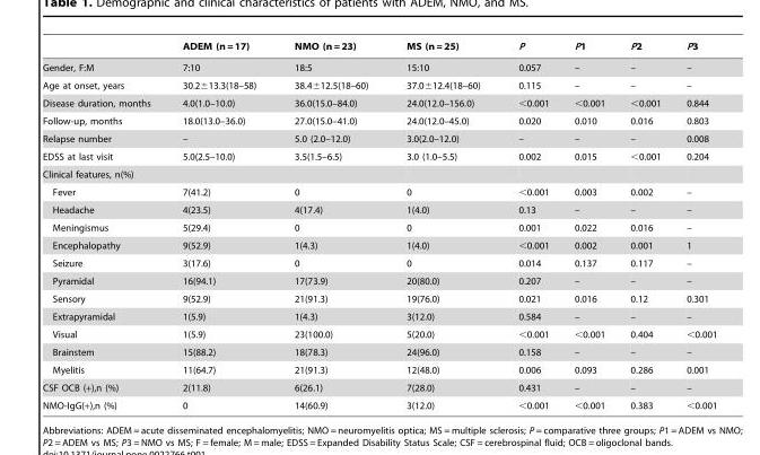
<table><thead><tr><td></td><td>ADEM (n = 17)</td><td>NMO (n = 23)</td><td>MS (n = 25)</td><td>P</td><td>P1</td><td>P2</td><td>P3</td></tr></thead><tbody><tr><td>Gender, F:M</td><td>7:10</td><td>18:5</td><td>15:10</td><td>0.057</td><td>–</td><td>–</td><td>–</td></tr><tr><td>Age at onset, years</td><td>30.2±13.3(18–58)</td><td>38.4±12.5(18–60)</td><td>37.0±12.4(18–60)</td><td>0.115</td><td>–</td><td>–</td><td>–</td></tr><tr><td>Disease duration, months</td><td>4.0(1.0–10.0)</td><td>36.0(15.0–84.0)</td><td>24.0(12.0–156.0)</td><td>&lt;0.001</td><td>&lt;0.001</td><td>&lt;0.001</td><td>0.844</td></tr><tr><td>Follow-up, months</td><td>18.0(13.0–36.0)</td><td>27.0(15.0–41.0)</td><td>24.0(12.0–45.0)</td><td>0.020</td><td>0.010</td><td>0.016</td><td>0.803</td></tr><tr><td>Relapse number</td><td>–</td><td>5.0 (2.0–12.0)</td><td>3.0(2.0–12.0)</td><td>–</td><td>–</td><td>–</td><td>0.008</td></tr><tr><td>EDSS at last visit</td><td>5.0(2.5–10.0)</td><td>3.5(1.5–6.5)</td><td>3.0 (1.0–5.5)</td><td>0.002</td><td>0.015</td><td>&lt;0.001</td><td>0.204</td></tr><tr><td colspan="8">Clinical features, n(%)</td></tr><tr><td>Fever</td><td>7(41.2)</td><td>0</td><td>0</td><td>&lt;0.001</td><td>0.003</td><td>0.002</td><td>–</td></tr><tr><td>Headache</td><td>4(23.5)</td><td>4(17.4)</td><td>1(4.0)</td><td>0.13</td><td>–</td><td>–</td><td>–</td></tr><tr><td>Meningismus</td><td>5(29.4)</td><td>0</td><td>0</td><td>0.001</td><td>0.022</td><td>0.016</td><td>–</td></tr><tr><td>Encephalopathy</td><td>9(52.9)</td><td>1(4.3)</td><td>1(4.0)</td><td>&lt;0.001</td><td>0.002</td><td>0.001</td><td>1</td></tr><tr><td>Seizure</td><td>3(17.6)</td><td>0</td><td>0</td><td>0.014</td><td>0.137</td><td>0.117</td><td>–</td></tr><tr><td>Pyramidal</td><td>16(94.1)</td><td>17(73.9)</td><td>20(80.0)</td><td>0.207</td><td>–</td><td>–</td><td>–</td></tr><tr><td>Sensory</td><td>9(52.9)</td><td>21(91.3)</td><td>19(76.0)</td><td>0.021</td><td>0.016</td><td>0.12</td><td>0.301</td></tr><tr><td>Extrapyramidal</td><td>1(5.9)</td><td>1(4.3)</td><td>3(12.0)</td><td>0.584</td><td>–</td><td>–</td><td>–</td></tr><tr><td>Visual</td><td>1(5.9)</td><td>23(100.0)</td><td>5(20.0)</td><td>&lt;0.001</td><td>&lt;0.001</td><td>0.404</td><td>&lt;0.001</td></tr><tr><td>Brainstem</td><td>15(88.2)</td><td>18(78.3)</td><td>24(96.0)</td><td>0.158</td><td>–</td><td>–</td><td>–</td></tr><tr><td>Myelitis</td><td>11(64.7)</td><td>21(91.3)</td><td>12(48.0)</td><td>0.006</td><td>0.093</td><td>0.286</td><td>0.001</td></tr><tr><td>CSF OCB (+),n (%)</td><td>2(11.8)</td><td>6(26.1)</td><td>7(28.0)</td><td>0.431</td><td>–</td><td>–</td><td>–</td></tr><tr><td>NMO-IgG(+),n (%)</td><td>0</td><td>14(60.9)</td><td>3(12.0)</td><td>&lt;0.001</td><td>&lt;0.001</td><td>0.383</td><td>&lt;0.001</td></tr></tbody></table>